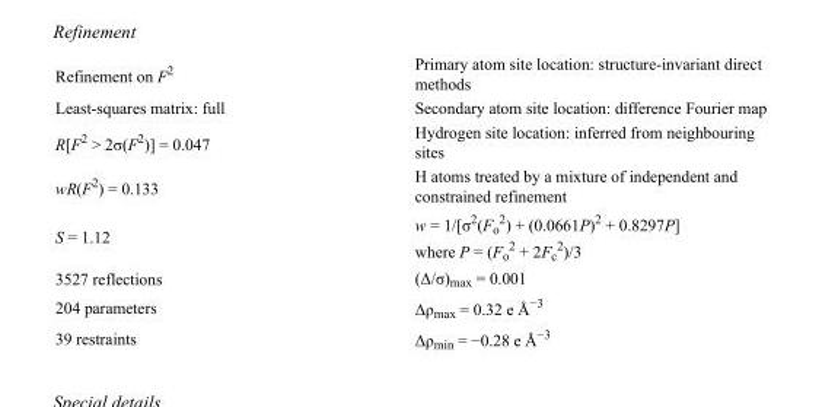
<table><tbody><tr><td>Refinement on F<sup>2</sup></td><td>Primary atom site location: structure-invariant direct methods</td></tr><tr><td>Least-squares matrix: full</td><td>Secondary atom site location: difference Fourier map</td></tr><tr><td>R[F<sup>2</sup> &gt; 2σ(F<sup>2</sup>)] = 0.047</td><td>Hydrogen site location: inferred from neighbouring sites</td></tr><tr><td>wR(F<sup>2</sup>) = 0.133</td><td>H atoms treated by a mixture of independent and constrained refinement</td></tr><tr><td>S = 1.12</td><td>w = 1/[σ<sup>2</sup>(F<sub>o</sub> <sup>2</sup>) + (0.0661P)<sup>2</sup> + 0.8297P] where P = (F<sub>o</sub> <sup>2</sup> + 2F<sub>c</sub> <sup>2</sup>)/3</td></tr><tr><td>3527 reflections</td><td>(Δ/σ)<sub>max</sub> = 0.001</td></tr><tr><td>204 parameters</td><td>Δρ<sub>max</sub> = 0.32 e Å<sup>−3</sup></td></tr><tr><td>39 restraints</td><td>Δρ<sub>min</sub> = −0.28 e Å<sup>−3</sup></td></tr></tbody></table>